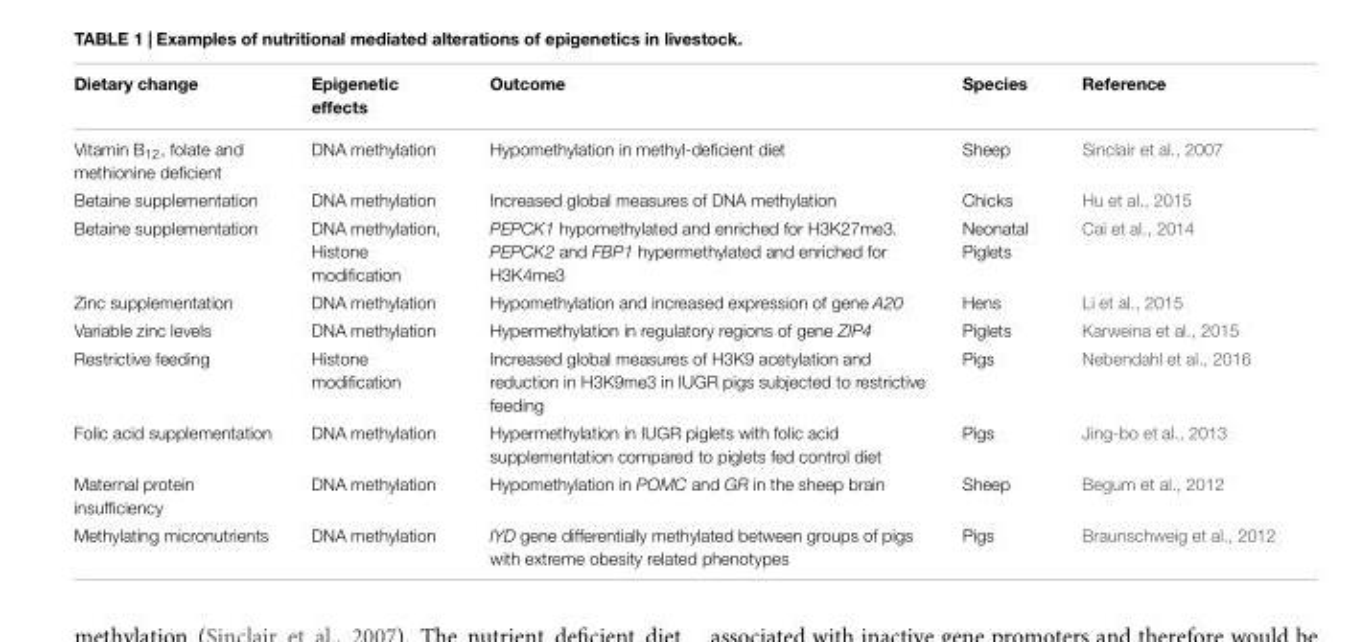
<table><thead><tr><td>Dietary change</td><td>Epigenetic effects</td><td>Outcome</td><td>Species</td><td>Reference</td></tr></thead><tbody><tr><td>Vitamin B<sub>12</sub>, folate and methionine deficient</td><td>DNA methylation</td><td>Hypomethylation in methyl-deficient diet</td><td>Sheep</td><td>Sinclair et al., 2007</td></tr><tr><td>Betaine supplementation</td><td>DNA methylation</td><td>Increased global measures of DNA methylation</td><td>Chicks</td><td>Hu et al., 2015</td></tr><tr><td>Betaine supplementation</td><td>DNA methylation, Histone modification</td><td>PEPCK1 hypomethylated and enriched for H3K27me3. PEPCK2 and FBP1 hypermethylated and enriched for H3K4me3</td><td>Neonatal Piglets</td><td>Cai et al., 2014</td></tr><tr><td>Zinc supplementation</td><td>DNA methylation</td><td>Hypomethylation and increased expression of gene A20</td><td>Hens</td><td>Li et al., 2015</td></tr><tr><td>Variable zinc levels</td><td>DNA methylation</td><td>Hypermethylation in regulatory regions of gene ZIP4</td><td>Piglets</td><td>Karweina et al., 2015</td></tr><tr><td>Restrictive feeding</td><td>Histone modification</td><td>Increased global measures of H3K9 acetylation and reduction in H3K9me3 in IUGR pigs subjected to restrictive feeding</td><td>Pigs</td><td>Nebendahl et al., 2016</td></tr><tr><td>Folic acid supplementation</td><td>DNA methylation</td><td>Hypermethylation in IUGR piglets with folic acid supplementation compared to piglets fed control diet</td><td>Pigs</td><td>Jing-bo et al., 2013</td></tr><tr><td>Maternal protein insufficiency</td><td>DNA methylation</td><td>Hypomethylation in POMC and GR in the sheep brain</td><td>Sheep</td><td>Begum et al., 2012</td></tr><tr><td>Methylating micronutrients</td><td>DNA methylation</td><td>IYD gene differentially methylated between groups of pigs with extreme obesity related phenotypes</td><td>Pigs</td><td>Braunschweig et al., 2012</td></tr></tbody></table>